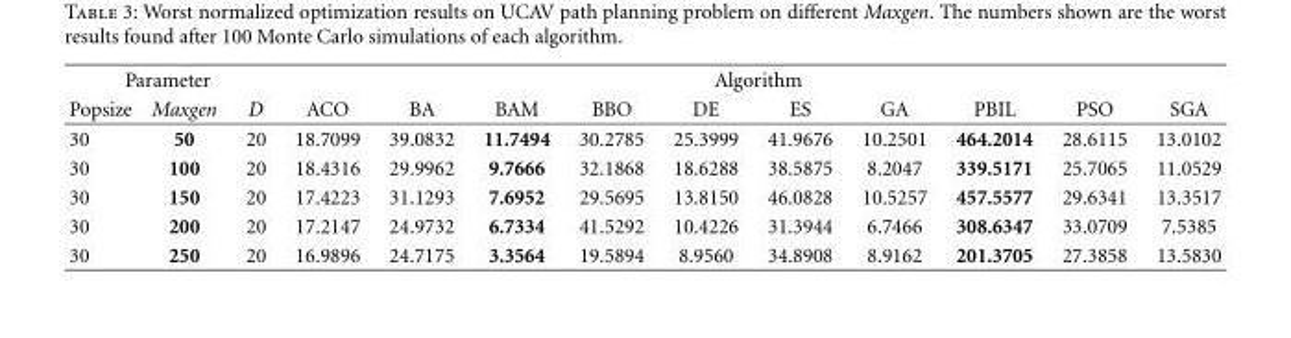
<table><thead><tr><td colspan="3">Parameter</td><td colspan="10">Algorithm</td></tr><tr><td>Popsize</td><td>Maxgen</td><td>D</td><td>ACO</td><td>BA</td><td>BAM</td><td>BBO</td><td>DE</td><td>ES</td><td>GA</td><td>PBIL</td><td>PSO</td><td>SGA</td></tr></thead><tbody><tr><td>30</td><td>50</td><td>20</td><td>18.7099</td><td>39.0832</td><td>11.7494</td><td>30.2785</td><td>25.3999</td><td>41.9676</td><td>10.2501</td><td>464.2014</td><td>28.6115</td><td>13.0102</td></tr><tr><td>30</td><td>100</td><td>20</td><td>18.4316</td><td>29.9962</td><td>9.7666</td><td>32.1868</td><td>18.6288</td><td>38.5875</td><td>8.2047</td><td>339.5171</td><td>25.7065</td><td>11.0529</td></tr><tr><td>30</td><td>150</td><td>20</td><td>17.4223</td><td>31.1293</td><td>7.6952</td><td>29.5695</td><td>13.8150</td><td>46.0828</td><td>10.5257</td><td>457.5577</td><td>29.6341</td><td>13.3517</td></tr><tr><td>30</td><td>200</td><td>20</td><td>17.2147</td><td>24.9732</td><td>6.7334</td><td>41.5292</td><td>10.4226</td><td>31.3944</td><td>6.7466</td><td>308.6347</td><td>33.0709</td><td>7.5385</td></tr><tr><td>30</td><td>250</td><td>20</td><td>16.9896</td><td>24.7175</td><td>3.3564</td><td>19.5894</td><td>8.9560</td><td>34.8908</td><td>8.9162</td><td>201.3705</td><td>27.3858</td><td>13.5830</td></tr></tbody></table>